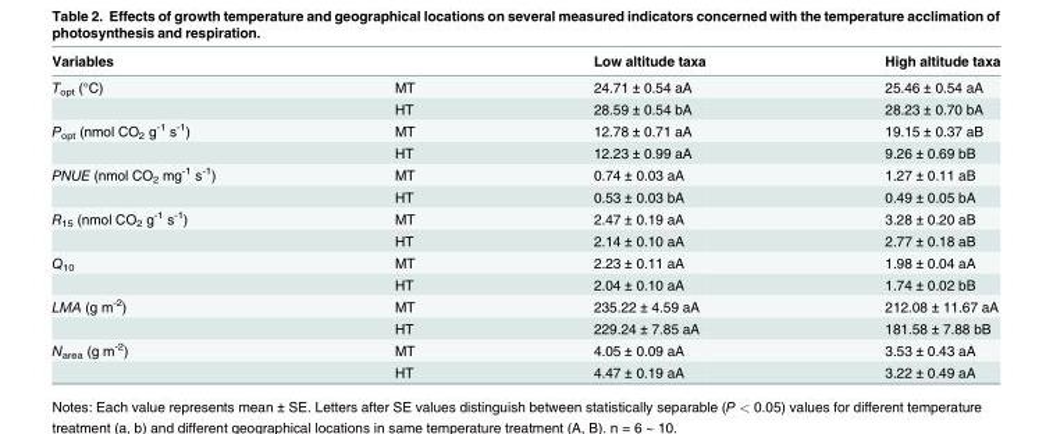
<table><thead><tr><td>Variables</td><td></td><td>Low altitude taxa</td><td>High altitude taxa</td></tr></thead><tbody><tr><td rowspan="2">T<sub>opt</sub> (°C)</td><td>MT</td><td>24.71 ± 0.54 aA</td><td>25.46 ± 0.54 aA</td></tr><tr><td>HT</td><td>28.59 ± 0.54 bA</td><td>28.23 ± 0.70 bA</td></tr><tr><td rowspan="2">P<sub>opt</sub> (nmol CO<sub>2</sub> g<sup>-1</sup> s<sup>-1</sup>)</td><td>MT</td><td>12.78 ± 0.71 aA</td><td>19.15 ± 0.37 aB</td></tr><tr><td>HT</td><td>12.23 ± 0.99 aA</td><td>9.26 ± 0.69 bB</td></tr><tr><td rowspan="2">PNUE (nmol CO<sub>2</sub> mg<sup>-1</sup> s<sup>-1</sup>)</td><td>MT</td><td>0.74 ± 0.03 aA</td><td>1.27 ± 0.11 aB</td></tr><tr><td>HT</td><td>0.53 ± 0.03 bA</td><td>0.49 ± 0.05 bA</td></tr><tr><td rowspan="2">R<sub>15</sub> (nmol CO<sub>2</sub> g<sup>-1</sup> s<sup>-1</sup>)</td><td>MT</td><td>2.47 ± 0.19 aA</td><td>3.28 ± 0.20 aB</td></tr><tr><td>HT</td><td>2.14 ± 0.10 aA</td><td>2.77 ± 0.18 aB</td></tr><tr><td rowspan="2">Q<sub>10</sub></td><td>MT</td><td>2.23 ± 0.11 aA</td><td>1.98 ± 0.04 aA</td></tr><tr><td>HT</td><td>2.04 ± 0.10 aA</td><td>1.74 ± 0.02 bB</td></tr><tr><td rowspan="2">LMA (g m<sup>-2</sup>)</td><td>MT</td><td>235.22 ± 4.59 aA</td><td>212.08 ± 11.67 aA</td></tr><tr><td>HT</td><td>229.24 ± 7.85 aA</td><td>181.58 ± 7.88 bB</td></tr><tr><td rowspan="2">N<sub>area</sub> (g m<sup>-2</sup>)</td><td>MT</td><td>4.05 ± 0.09 aA</td><td>3.53 ± 0.43 aA</td></tr><tr><td>HT</td><td>4.47 ± 0.19 aA</td><td>3.22 ± 0.49 aA</td></tr></tbody></table>